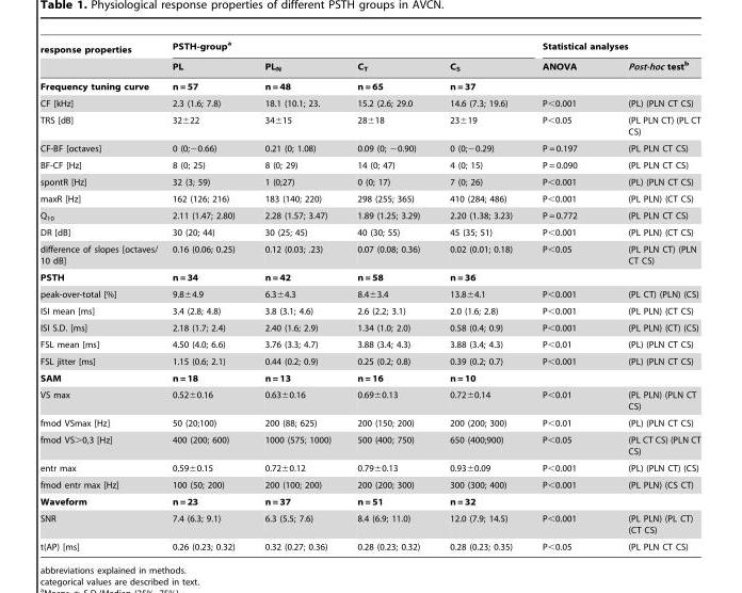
<table><thead><tr><td rowspan="2">response properties</td><td colspan="4">PSTH-group<sup>a</sup></td><td colspan="2">Statistical analyses</td></tr><tr><td>PL</td><td>PL<sub>N</sub></td><td>C<sub>T</sub></td><td>C<sub>S</sub></td><td>ANOVA</td><td>Post-hoc test<sup>b</sup></td></tr></thead><tbody><tr><td>Frequency tuning curve</td><td>n = 57</td><td>n = 48</td><td>n = 65</td><td>n = 37</td><td></td><td></td></tr><tr><td>CF [kHz]</td><td>2.3 (1.6; 7.8)</td><td>18.1 (10.1; 23.</td><td>15.2 (2.6; 29.0</td><td>14.6 (7.3; 19.6)</td><td>P&lt;0.001</td><td>(PL) (PLN CT CS)</td></tr><tr><td>TRS [dB]</td><td>32±22</td><td>34±15</td><td>28±18</td><td>23±19</td><td>P&lt;0.05</td><td>(PL PLN CT) (PL CT CS)</td></tr><tr><td>CF-BF [octaves]</td><td>0 (0;−0.66)</td><td>0.21 (0; 1.08)</td><td>0.09 (0; −0.90)</td><td>0 (0;−0.29)</td><td>P = 0.197</td><td>(PL PLN CT CS)</td></tr><tr><td>BF-CF [Hz]</td><td>8 (0; 25)</td><td>8 (0; 29)</td><td>14 (0; 47)</td><td>4 (0; 15)</td><td>P = 0.090</td><td>(PL PLN CT CS)</td></tr><tr><td>spontR [Hz]</td><td>32 (3; 59)</td><td>1 (0;27)</td><td>0 (0; 17)</td><td>7 (0; 26)</td><td>P&lt;0.001</td><td>(PL) (PLN CT CS)</td></tr><tr><td>maxR [Hz]</td><td>162 (126; 216)</td><td>183 (140; 220)</td><td>298 (255; 365)</td><td>410 (284; 486)</td><td>P&lt;0.001</td><td>(PL PLN) (CT CS)</td></tr><tr><td>Q<sub>10</sub></td><td>2.11 (1.47; 2.80)</td><td>2.28 (1.57; 3.47)</td><td>1.89 (1.25; 3.29)</td><td>2.20 (1.38; 3.23)</td><td>P = 0.772</td><td>(PL PLN CT CS)</td></tr><tr><td>DR [dB]</td><td>30 (20; 44)</td><td>30 (25; 45)</td><td>40 (30; 55)</td><td>45 (35; 51)</td><td>P&lt;0.001</td><td>(PL PLN) (CT CS)</td></tr><tr><td>difference of slopes [octaves/ 10 dB]</td><td>0.16 (0.06; 0.25)</td><td>0.12 (0.03; .23)</td><td>0.07 (0.08; 0.36)</td><td>0.02 (0.01; 0.18)</td><td>P&lt;0.05</td><td>(PL PLN CT) (PLN CT CS)</td></tr><tr><td>PSTH</td><td>n = 34</td><td>n = 42</td><td>n = 58</td><td>n = 36</td><td></td><td></td></tr><tr><td>peak-over-total [%]</td><td>9.8±4.9</td><td>6.3±4.3</td><td>8.4±3.4</td><td>13.8±4.1</td><td>P&lt;0.001</td><td>(PL CT) (PLN) (CS)</td></tr><tr><td>ISI mean [ms]</td><td>3.4 (2.8; 4.8)</td><td>3.8 (3.1; 4.6)</td><td>2.6 (2.2; 3.1)</td><td>2.0 (1.6; 2.8)</td><td>P&lt;0.001</td><td>(PL PLN) (CT CS)</td></tr><tr><td>ISI S.D. [ms]</td><td>2.18 (1.7; 2.4)</td><td>2.40 (1.6; 2.9)</td><td>1.34 (1.0; 2.0)</td><td>0.58 (0.4; 0.9)</td><td>P&lt;0.001</td><td>(PL PLN) (CT) (CS)</td></tr><tr><td>FSL mean [ms]</td><td>4.50 (4.0; 6.6)</td><td>3.76 (3.3; 4.7)</td><td>3.88 (3.4; 4.3)</td><td>3.88 (3.4; 4.3)</td><td>P&lt;0.01</td><td>(PL) (PLN CT CS)</td></tr><tr><td>FSL jitter [ms]</td><td>1.15 (0.6; 2.1)</td><td>0.44 (0.2; 0.9)</td><td>0.25 (0.2; 0.8)</td><td>0.39 (0.2; 0.7)</td><td>P&lt;0.001</td><td>(PL) (PLN CT CS)</td></tr><tr><td>SAM</td><td>n = 18</td><td>n = 13</td><td>n = 16</td><td>n = 10</td><td></td><td></td></tr><tr><td>VS max</td><td>0.52±0.16</td><td>0.63±0.16</td><td>0.69±0.13</td><td>0.72±0.14</td><td>P&lt;0.01</td><td>(PL PLN) (PLN CT CS)</td></tr><tr><td>fmod VSmax [Hz]</td><td>50 (20;100)</td><td>200 (88; 625)</td><td>200 (150; 200)</td><td>200 (200; 300)</td><td>P&lt;0.01</td><td>(PL) (PLN CT CS)</td></tr><tr><td>fmod VS&gt;0,3 [Hz]</td><td>400 (200; 600)</td><td>1000 (575; 1000)</td><td>500 (400; 750)</td><td>650 (400;900)</td><td>P&lt;0.05</td><td>(PL CT CS) (PLN CT CS)</td></tr><tr><td>entr max</td><td>0.59±0.15</td><td>0.72±0.12</td><td>0.79±0.13</td><td>0.93±0.09</td><td>P&lt;0.001</td><td>(PL) (PLN CT) (CS)</td></tr><tr><td>fmod entr max [Hz]</td><td>100 (50; 200)</td><td>200 (100; 200)</td><td>200 (200; 300)</td><td>300 (300; 400)</td><td>P&lt;0.001</td><td>(PL PLN) (CS CT)</td></tr><tr><td>Waveform</td><td>n = 23</td><td>n = 37</td><td>n = 51</td><td>n = 32</td><td></td><td></td></tr><tr><td>SNR</td><td>7.4 (6.3; 9.1)</td><td>6.3 (5.5; 7.6)</td><td>8.4 (6.9; 11.0)</td><td>12.0 (7.9; 14.5)</td><td>P&lt;0.001</td><td>(PL PLN) (PL CT) (CT CS)</td></tr><tr><td>t(AP) [ms]</td><td>0.26 (0.23; 0.32)</td><td>0.32 (0.27; 0.36)</td><td>0.28 (0.23; 0.32)</td><td>0.28 (0.23; 0.35)</td><td>P&lt;0.05</td><td>(PL PLN CT CS)</td></tr></tbody></table>